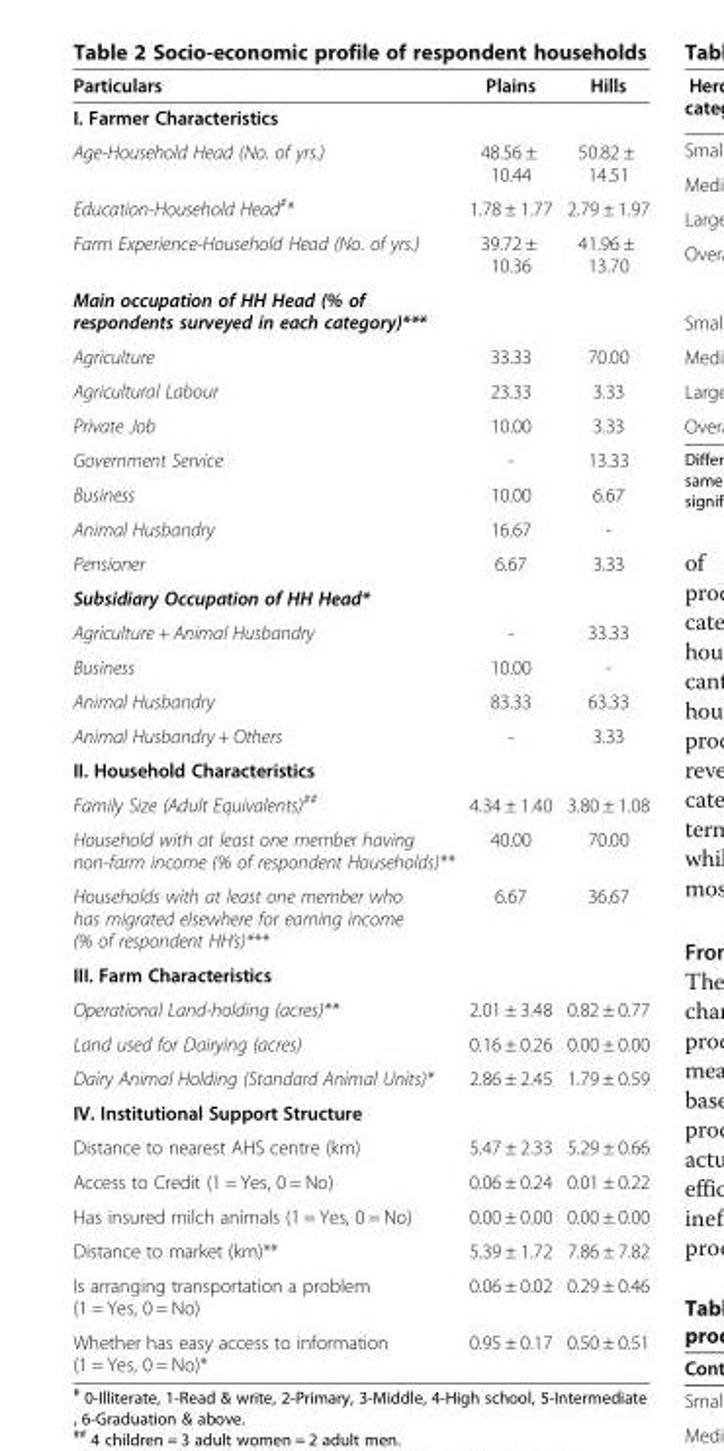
<table><thead><tr><td>Particulars</td><td>Plains</td><td>Hills</td></tr></thead><tbody><tr><td colspan="3">I. Farmer Characteristics</td></tr><tr><td>Age-Household Head (No. of yrs.)</td><td>48.56 ± 10.44</td><td>50.82 ± 14.51</td></tr><tr><td>Education-Household Head<sup>#</sup>*</td><td>1.78 ± 1.77</td><td>2.79 ± 1.97</td></tr><tr><td>Farm Experience-Household Head (No. of yrs.)</td><td>39.72 ± 10.36</td><td>41.96 ± 13.70</td></tr><tr><td colspan="3">Main occupation of HH Head (% of respondents surveyed in each category)***</td></tr><tr><td>Agriculture</td><td>33.33</td><td>70.00</td></tr><tr><td>Agricultural Labour</td><td>23.33</td><td>3.33</td></tr><tr><td>Private Job</td><td>10.00</td><td>3.33</td></tr><tr><td>Government Service</td><td>-</td><td>13.33</td></tr><tr><td>Business</td><td>10.00</td><td>6.67</td></tr><tr><td>Animal Husbandry</td><td>16.67</td><td>-</td></tr><tr><td>Pensioner</td><td>6.67</td><td>3.33</td></tr><tr><td colspan="3">Subsidiary Occupation of HH Head*</td></tr><tr><td>Agriculture + Animal Husbandry</td><td>-</td><td>33.33</td></tr><tr><td>Business</td><td>10.00</td><td>-</td></tr><tr><td>Animal Husbandry</td><td>83.33</td><td>63.33</td></tr><tr><td>Animal Husbandry + Others</td><td>-</td><td>3.33</td></tr><tr><td colspan="3">II. Household Characteristics</td></tr><tr><td>Family Size (Adult Equivalents)<sup>##</sup></td><td>4.34 ± 1.40</td><td>3.80 ± 1.08</td></tr><tr><td>Household with at least one member having non-farm income (% of respondent Households)**</td><td>40.00</td><td>70.00</td></tr><tr><td>Households with at least one member who has migrated elsewhere for earning income (% of respondent HH’s)***</td><td>6.67</td><td>36.67</td></tr><tr><td colspan="3">III. Farm Characteristics</td></tr><tr><td>Operational Land-holding (acres)**</td><td>2.01 ± 3.48</td><td>0.82 ± 0.77</td></tr><tr><td>Land used for Dairying (acres)</td><td>0.16 ± 0.26</td><td>0.00 ± 0.00</td></tr><tr><td>Dairy Animal Holding (Standard Animal Units)*</td><td>2.86 ± 2.45</td><td>1.79 ± 0.59</td></tr><tr><td colspan="3">IV. Institutional Support Structure</td></tr><tr><td>Distance to nearest AHS centre (km)</td><td>5.47 ± 2.33</td><td>5.29 ± 0.66</td></tr><tr><td>Access to Credit (1 = Yes, 0 = No)</td><td>0.06 ± 0.24</td><td>0.01 ± 0.22</td></tr><tr><td>Has insured milch animals (1 = Yes, 0 = No)</td><td>0.00 ± 0.00</td><td>0.00 ± 0.00</td></tr><tr><td>Distance to market (km)**</td><td>5.39 ± 1.72</td><td>7.86 ± 7.82</td></tr><tr><td>Is arranging transportation a problem (1 = Yes, 0 = No)</td><td>0.06 ± 0.02</td><td>0.29 ± 0.46</td></tr><tr><td>Whether has easy access to information (1 = Yes, 0 = No)*</td><td>0.95 ± 0.17</td><td>0.50 ± 0.51</td></tr></tbody></table>